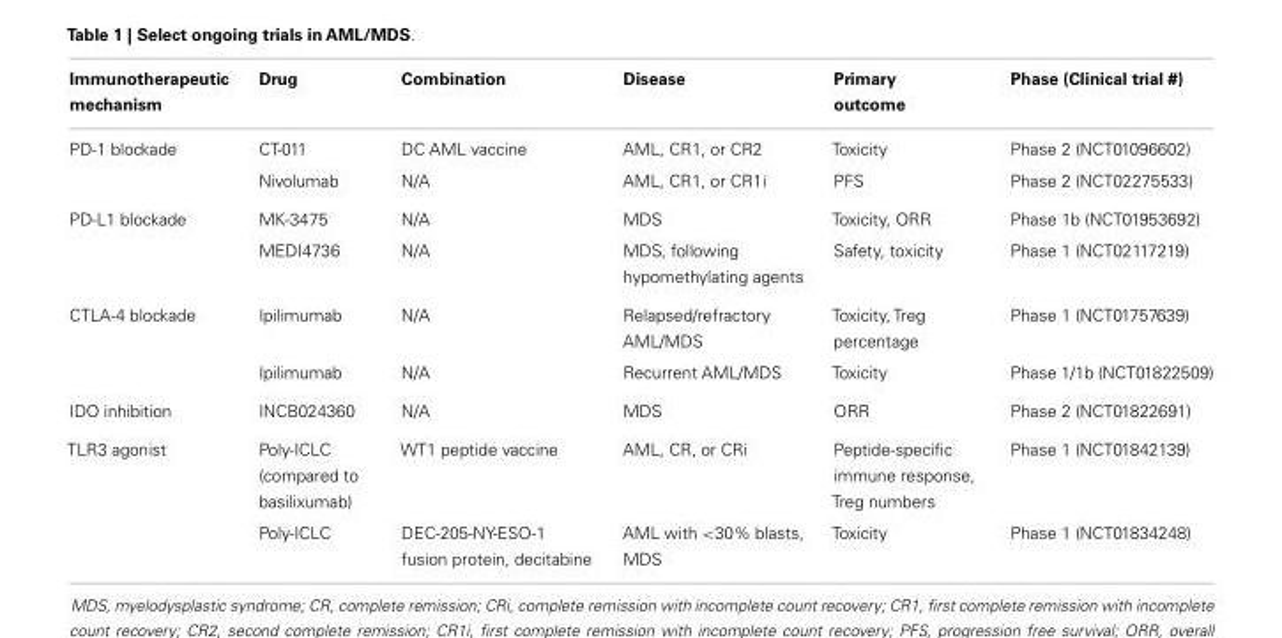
<table><thead><tr><td>Immunotherapeutic mechanism</td><td>Drug</td><td>Combination</td><td>Disease</td><td>Primary outcome</td><td>Phase (Clinical trial #)</td></tr></thead><tbody><tr><td rowspan="2">PD-1 blockade</td><td>CT-011</td><td>DC AML vaccine</td><td>AML, CR1, or CR2</td><td>Toxicity</td><td>Phase 2 (NCT01096602)</td></tr><tr><td>Nivolumab</td><td>N/A</td><td>AML, CR1, or CR1i</td><td>PFS</td><td>Phase 2 (NCT02275533)</td></tr><tr><td rowspan="2">PD-L1 blockade</td><td>MK-3475</td><td>N/A</td><td>MDS</td><td>Toxicity, ORR</td><td>Phase 1b (NCT01953692)</td></tr><tr><td>MEDI4736</td><td>N/A</td><td>MDS, following hypomethylating agents</td><td>Safety, toxicity</td><td>Phase 1 (NCT02117219)</td></tr><tr><td rowspan="2">CTLA-4 blockade</td><td>Ipilimumab</td><td>N/A</td><td>Relapsed/refractory AML/MDS</td><td>Toxicity, Treg percentage</td><td>Phase 1 (NCT01757639)</td></tr><tr><td>Ipilimumab</td><td>N/A</td><td>Recurrent AML/MDS</td><td>Toxicity</td><td>Phase 1/1b (NCT01822509)</td></tr><tr><td>IDO inhibition</td><td>INCB024360</td><td>N/A</td><td>MDS</td><td>ORR</td><td>Phase 2 (NCT01822691)</td></tr><tr><td rowspan="2">TLR3 agonist</td><td>Poly-ICLC (compared to basilixumab)</td><td>WT1 peptide vaccine</td><td>AML, CR, or CRi</td><td>Peptide-specific immune response, Treg numbers</td><td>Phase 1 (NCT01842139)</td></tr><tr><td>Poly-ICLC</td><td>DEC-205-NY-ESO-1 fusion protein, decitabine</td><td>AML with &lt;30% blasts, MDS</td><td>Toxicity</td><td>Phase 1 (NCT01834248)</td></tr></tbody></table>